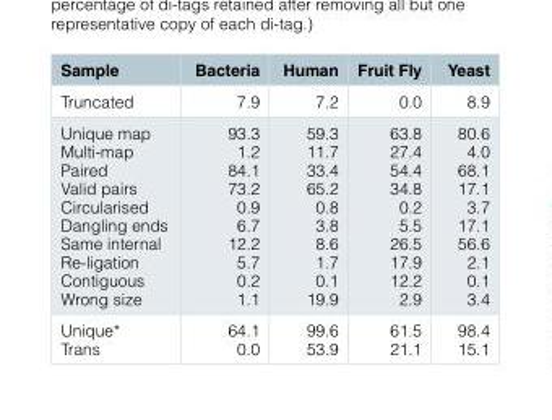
<table><thead><tr><td>Sample</td><td>Bacteria</td><td>Human</td><td>Fruit Fly</td><td>Yeast</td></tr></thead><tbody><tr><td>Truncated</td><td>7.9</td><td>7.2</td><td>0.0</td><td>8.9</td></tr><tr><td>Unique map Multi-map Paired Valid pairs Circularised Dangling ends Same internal Re-ligation Contiguous Wrong size</td><td>93.3 1.2 84.1 73.2 0.9 6.7 12.2 5.7 0.2 1.1</td><td>59.3 11.7 33.4 65.2 0.8 3.8 8.6 1.7 0.1 19.9</td><td>63.8 27.4 54.4 34.8 0.2 5.5 26.5 17.9 12.2 2.9</td><td>80.6 4.0 68.1 17.1 3.7 17.1 56.6 2.1 0.1 3.4</td></tr><tr><td>Unique* Trans</td><td>64.1 0.0</td><td>99.6 53.9</td><td>61.5 21.1</td><td>98.4 15.1</td></tr></tbody></table>